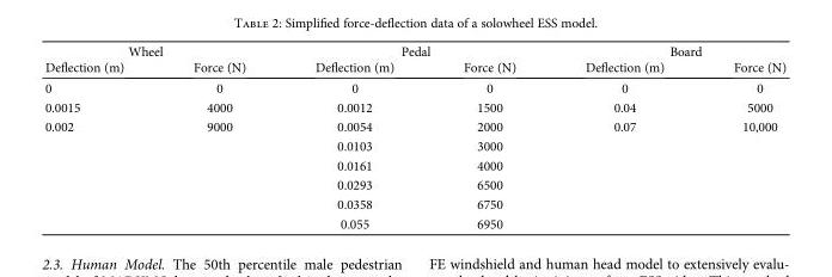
<table><thead><tr><td colspan="2">Wheel</td><td colspan="2">Pedal</td><td colspan="2">Board</td></tr><tr><td>Deflection (m)</td><td>Force (N)</td><td>Deflection (m)</td><td>Force (N)</td><td>Deflection (m)</td><td>Force (N)</td></tr></thead><tbody><tr><td>0</td><td>0</td><td>0</td><td>0</td><td>0</td><td>0</td></tr><tr><td>0.0015</td><td>4000</td><td>0.0012</td><td>1500</td><td>0.04</td><td>5000</td></tr><tr><td rowspan="6">0.002</td><td>9000</td><td>0.0054</td><td>2000</td><td>0.07</td><td>10,000</td></tr><tr><td></td><td>0.0103</td><td>3000</td><td></td><td></td></tr><tr><td></td><td>0.0161</td><td>4000</td><td></td><td></td></tr><tr><td></td><td>0.0293</td><td>6500</td><td></td><td></td></tr><tr><td></td><td>0.0358</td><td>6750</td><td></td><td></td></tr><tr><td></td><td>0.055</td><td>6950</td><td></td><td></td></tr></tbody></table>